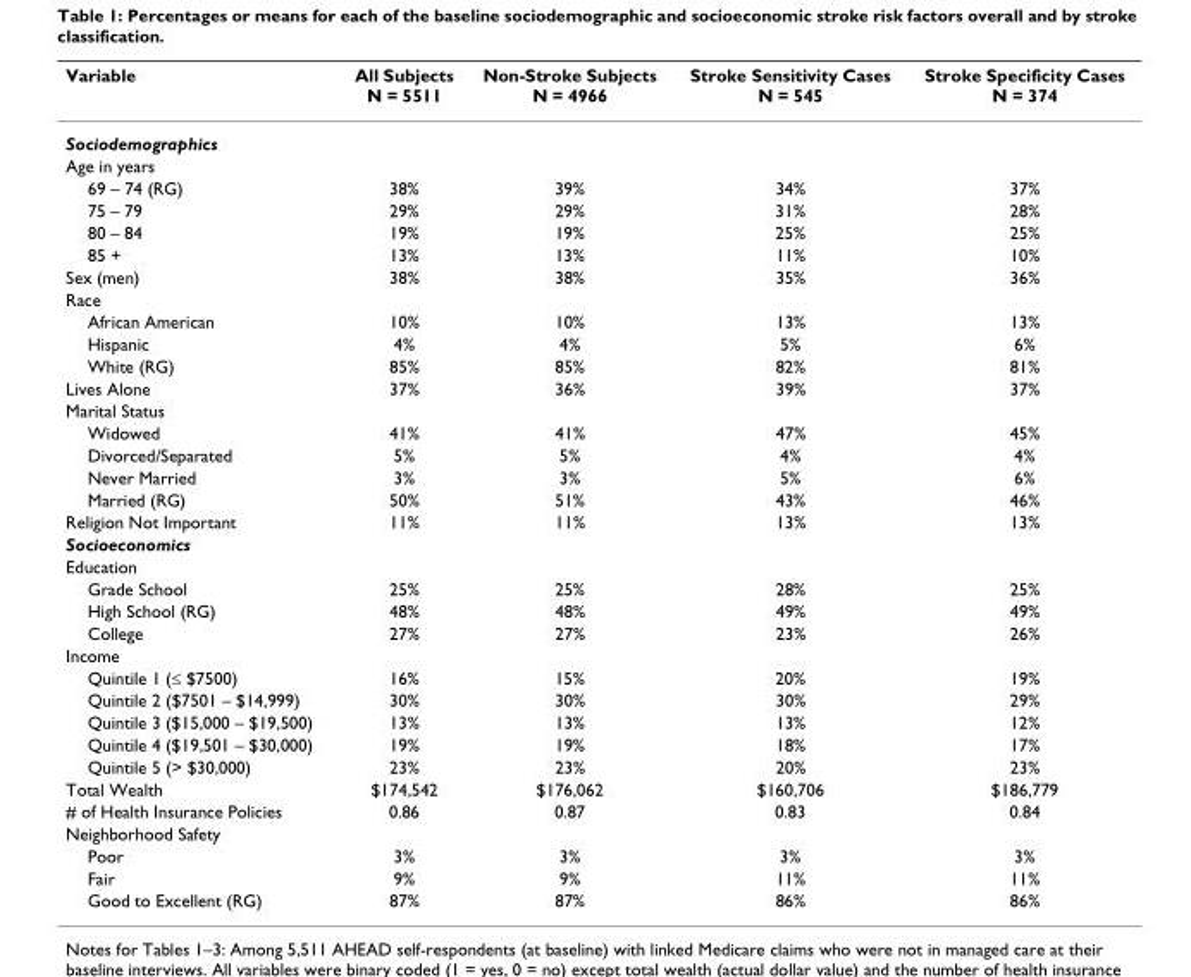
<table><thead><tr><td>Variable</td><td>All Subjects N = 5511</td><td>Non-Stroke Subjects N = 4966</td><td>Stroke Sensitivity Cases N = 545</td><td>Stroke Specificity Cases N = 374</td></tr></thead><tbody><tr><td colspan="5">Sociodemographics</td></tr><tr><td colspan="5">Age in years</td></tr><tr><td>69 – 74 (RG)</td><td>38%</td><td>39%</td><td>34%</td><td>37%</td></tr><tr><td>75 – 79</td><td>29%</td><td>29%</td><td>31%</td><td>28%</td></tr><tr><td>80 – 84</td><td>19%</td><td>19%</td><td>25%</td><td>25%</td></tr><tr><td>85 +</td><td>13%</td><td>13%</td><td>11%</td><td>10%</td></tr><tr><td>Sex (men)</td><td>38%</td><td>38%</td><td>35%</td><td>36%</td></tr><tr><td colspan="5">Race</td></tr><tr><td>African American</td><td>10%</td><td>10%</td><td>13%</td><td>13%</td></tr><tr><td>Hispanic</td><td>4%</td><td>4%</td><td>5%</td><td>6%</td></tr><tr><td>White (RG)</td><td>85%</td><td>85%</td><td>82%</td><td>81%</td></tr><tr><td>Lives Alone</td><td>37%</td><td>36%</td><td>39%</td><td>37%</td></tr><tr><td colspan="5">Marital Status</td></tr><tr><td>Widowed</td><td>41%</td><td>41%</td><td>47%</td><td>45%</td></tr><tr><td>Divorced/Separated</td><td>5%</td><td>5%</td><td>4%</td><td>4%</td></tr><tr><td>Never Married</td><td>3%</td><td>3%</td><td>5%</td><td>6%</td></tr><tr><td>Married (RG)</td><td>50%</td><td>51%</td><td>43%</td><td>46%</td></tr><tr><td>Religion Not Important</td><td>11%</td><td>11%</td><td>13%</td><td>13%</td></tr><tr><td colspan="5">Socioeconomics</td></tr><tr><td colspan="5">Education</td></tr><tr><td>Grade School</td><td>25%</td><td>25%</td><td>28%</td><td>25%</td></tr><tr><td>High School (RG)</td><td>48%</td><td>48%</td><td>49%</td><td>49%</td></tr><tr><td>College</td><td>27%</td><td>27%</td><td>23%</td><td>26%</td></tr><tr><td colspan="5">Income</td></tr><tr><td>Quintile 1 (≤ $7500)</td><td>16%</td><td>15%</td><td>20%</td><td>19%</td></tr><tr><td>Quintile 2 ($7501 – $14,999)</td><td>30%</td><td>30%</td><td>30%</td><td>29%</td></tr><tr><td>Quintile 3 ($15,000 – $19,500)</td><td>13%</td><td>13%</td><td>13%</td><td>12%</td></tr><tr><td>Quintile 4 ($19,501 – $30,000)</td><td>19%</td><td>19%</td><td>18%</td><td>17%</td></tr><tr><td>Quintile 5 (&gt; $30,000)</td><td>23%</td><td>23%</td><td>20%</td><td>23%</td></tr><tr><td>Total Wealth</td><td>$174,542</td><td>$176,062</td><td>$160,706</td><td>$186,779</td></tr><tr><td># of Health Insurance Policies</td><td>0.86</td><td>0.87</td><td>0.83</td><td>0.84</td></tr><tr><td colspan="5">Neighborhood Safety</td></tr><tr><td>Poor</td><td>3%</td><td>3%</td><td>3%</td><td>3%</td></tr><tr><td>Fair</td><td>9%</td><td>9%</td><td>11%</td><td>11%</td></tr><tr><td>Good to Excellent (RG)</td><td>87%</td><td>87%</td><td>86%</td><td>86%</td></tr></tbody></table>